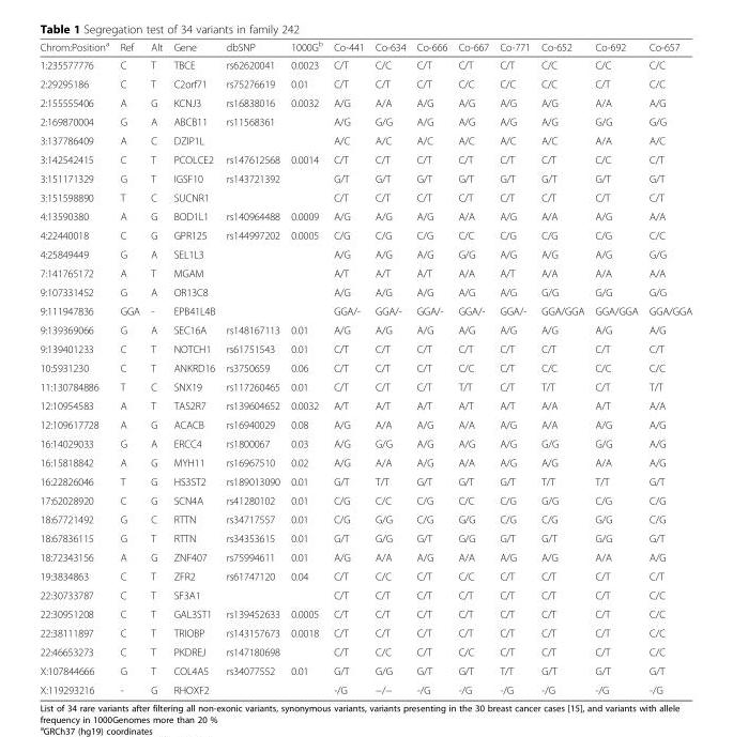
<table><thead><tr><td>Chrom:Position<sup>a</sup></td><td>Ref</td><td>Alt</td><td>Gene</td><td>dbSNP</td><td>1000G<sup>b</sup></td><td>Co-441</td><td>Co-634</td><td>Co-666</td><td>Co-667</td><td>Co-771</td><td>Co-652</td><td>Co-692</td><td>Co-657</td></tr></thead><tbody><tr><td>1:235577776</td><td>C</td><td>T</td><td>TBCE</td><td>rs62620041</td><td>0.0023</td><td>C/T</td><td>C/C</td><td>C/T</td><td>C/T</td><td>C/T</td><td>C/C</td><td>C/C</td><td>C/C</td></tr><tr><td>2:29295186</td><td>C</td><td>T</td><td>C2orf71</td><td>rs75276619</td><td>0.01</td><td>C/T</td><td>C/T</td><td>C/T</td><td>C/C</td><td>C/C</td><td>C/C</td><td>C/T</td><td>C/C</td></tr><tr><td>2:155555406</td><td>A</td><td>G</td><td>KCNJ3</td><td>rs16838016</td><td>0.0032</td><td>A/G</td><td>A/A</td><td>A/G</td><td>A/G</td><td>A/G</td><td>A/G</td><td>A/A</td><td>A/G</td></tr><tr><td>2:169870004</td><td>G</td><td>A</td><td>ABCB11</td><td>rs11568361</td><td></td><td>A/G</td><td>G/G</td><td>A/G</td><td>A/G</td><td>A/G</td><td>A/G</td><td>G/G</td><td>G/G</td></tr><tr><td>3:137786409</td><td>A</td><td>C</td><td>DZIP1L</td><td></td><td></td><td>A/C</td><td>A/C</td><td>A/C</td><td>A/C</td><td>A/C</td><td>A/C</td><td>A/A</td><td>A/C</td></tr><tr><td>3:142542415</td><td>C</td><td>T</td><td>PCOLCE2</td><td>rs147612568</td><td>0.0014</td><td>C/T</td><td>C/T</td><td>C/T</td><td>C/T</td><td>C/T</td><td>C/T</td><td>C/C</td><td>C/T</td></tr><tr><td>3:151171329</td><td>G</td><td>T</td><td>IGSF10</td><td>rs143721392</td><td></td><td>G/T</td><td>G/T</td><td>G/T</td><td>G/T</td><td>G/T</td><td>G/T</td><td>G/T</td><td>G/T</td></tr><tr><td>3:151598890</td><td>T</td><td>C</td><td>SUCNR1</td><td></td><td></td><td>C/T</td><td>C/T</td><td>C/T</td><td>C/T</td><td>C/T</td><td>C/T</td><td>C/T</td><td>C/T</td></tr><tr><td>4:13590380</td><td>A</td><td>G</td><td>BOD1L1</td><td>rs140964488</td><td>0.0009</td><td>A/G</td><td>A/G</td><td>A/G</td><td>A/A</td><td>A/G</td><td>A/A</td><td>A/G</td><td>A/A</td></tr><tr><td>4:22440018</td><td>C</td><td>G</td><td>GPR125</td><td>rs144997202</td><td>0.0005</td><td>C/G</td><td>C/G</td><td>C/G</td><td>C/C</td><td>C/G</td><td>C/G</td><td>C/G</td><td>C/C</td></tr><tr><td>4:25849449</td><td>G</td><td>A</td><td>SEL1L3</td><td></td><td></td><td>A/G</td><td>A/G</td><td>A/G</td><td>G/G</td><td>A/G</td><td>A/G</td><td>A/G</td><td>G/G</td></tr><tr><td>7:141765172</td><td>A</td><td>T</td><td>MGAM</td><td></td><td></td><td>A/T</td><td>A/T</td><td>A/T</td><td>A/A</td><td>A/T</td><td>A/A</td><td>A/A</td><td>A/A</td></tr><tr><td>9:107331452</td><td>G</td><td>A</td><td>OR13C8</td><td></td><td></td><td>A/G</td><td>A/G</td><td>A/G</td><td>A/G</td><td>A/G</td><td>G/G</td><td>G/G</td><td>G/G</td></tr><tr><td>9:111947836</td><td>GGA</td><td>-</td><td>EPB41L4B</td><td></td><td></td><td>GGA/-</td><td>GGA/-</td><td>GGA/-</td><td>GGA/-</td><td>GGA/-</td><td>GGA/GGA</td><td>GGA/GGA</td><td>GGA/GGA</td></tr><tr><td>9:139369066</td><td>G</td><td>A</td><td>SEC16A</td><td>rs148167113</td><td>0.01</td><td>A/G</td><td>A/G</td><td>A/G</td><td>A/G</td><td>A/G</td><td>A/G</td><td>A/G</td><td>A/G</td></tr><tr><td>9:139401233</td><td>C</td><td>T</td><td>NOTCH1</td><td>rs61751543</td><td>0.01</td><td>C/T</td><td>C/T</td><td>C/T</td><td>C/T</td><td>C/T</td><td>C/T</td><td>C/T</td><td>C/T</td></tr><tr><td>10:5931230</td><td>C</td><td>T</td><td>ANKRD16</td><td>rs3750659</td><td>0.06</td><td>C/T</td><td>C/T</td><td>C/T</td><td>C/C</td><td>C/T</td><td>C/C</td><td>C/C</td><td>C/C</td></tr><tr><td>11:130784886</td><td>T</td><td>C</td><td>SNX19</td><td>rs117260465</td><td>0.01</td><td>C/T</td><td>C/T</td><td>C/T</td><td>T/T</td><td>C/T</td><td>T/T</td><td>C/T</td><td>T/T</td></tr><tr><td>12:10954583</td><td>A</td><td>T</td><td>TAS2R7</td><td>rs139604652</td><td>0.0032</td><td>A/T</td><td>A/T</td><td>A/T</td><td>A/T</td><td>A/T</td><td>A/A</td><td>A/T</td><td>A/A</td></tr><tr><td>12:109617728</td><td>A</td><td>G</td><td>ACACB</td><td>rs16940029</td><td>0.08</td><td>A/G</td><td>A/A</td><td>A/G</td><td>A/A</td><td>A/G</td><td>A/A</td><td>A/G</td><td>A/G</td></tr><tr><td>16:14029033</td><td>G</td><td>A</td><td>ERCC4</td><td>rs1800067</td><td>0.03</td><td>A/G</td><td>G/G</td><td>A/G</td><td>A/G</td><td>A/G</td><td>G/G</td><td>G/G</td><td>A/G</td></tr><tr><td>16:15818842</td><td>A</td><td>G</td><td>MYH11</td><td>rs16967510</td><td>0.02</td><td>A/G</td><td>A/A</td><td>A/G</td><td>A/A</td><td>A/G</td><td>A/G</td><td>A/A</td><td>A/G</td></tr><tr><td>16:22826046</td><td>T</td><td>G</td><td>HS3ST2</td><td>rs189013090</td><td>0.01</td><td>G/T</td><td>T/T</td><td>G/T</td><td>G/T</td><td>G/T</td><td>T/T</td><td>T/T</td><td>G/T</td></tr><tr><td>17:62028920</td><td>C</td><td>G</td><td>SCN4A</td><td>rs41280102</td><td>0.01</td><td>C/G</td><td>C/C</td><td>C/G</td><td>C/C</td><td>C/G</td><td>G/G</td><td>C/G</td><td>C/G</td></tr><tr><td>18:67721492</td><td>G</td><td>C</td><td>RTTN</td><td>rs34717557</td><td>0.01</td><td>C/G</td><td>G/G</td><td>C/G</td><td>G/G</td><td>C/G</td><td>C/G</td><td>G/G</td><td>C/G</td></tr><tr><td>18:67836115</td><td>G</td><td>T</td><td>RTTN</td><td>rs34353615</td><td>0.01</td><td>G/T</td><td>G/G</td><td>G/T</td><td>G/G</td><td>G/T</td><td>G/T</td><td>G/G</td><td>G/T</td></tr><tr><td>18:72343156</td><td>A</td><td>G</td><td>ZNF407</td><td>rs75994611</td><td>0.01</td><td>A/G</td><td>A/A</td><td>A/G</td><td>A/A</td><td>A/G</td><td>A/G</td><td>A/A</td><td>A/G</td></tr><tr><td>19:3834863</td><td>C</td><td>T</td><td>ZFR2</td><td>rs61747120</td><td>0.04</td><td>C/T</td><td>C/C</td><td>C/T</td><td>C/C</td><td>C/T</td><td>C/T</td><td>C/T</td><td>C/T</td></tr><tr><td>22:30733787</td><td>C</td><td>T</td><td>SF3A1</td><td></td><td></td><td>C/T</td><td>C/T</td><td>C/T</td><td>C/T</td><td>C/T</td><td>C/T</td><td>C/T</td><td>C/C</td></tr><tr><td>22:30951208</td><td>C</td><td>T</td><td>GAL3ST1</td><td>rs139452633</td><td>0.0005</td><td>C/T</td><td>C/T</td><td>C/T</td><td>C/T</td><td>C/T</td><td>C/T</td><td>C/T</td><td>C/C</td></tr><tr><td>22:38111897</td><td>C</td><td>T</td><td>TRIOBP</td><td>rs143157673</td><td>0.0018</td><td>C/T</td><td>C/T</td><td>C/T</td><td>C/T</td><td>C/T</td><td>C/T</td><td>C/T</td><td>C/C</td></tr><tr><td>22:46653273</td><td>C</td><td>T</td><td>PKDREJ</td><td>rs147180698</td><td></td><td>C/T</td><td>C/C</td><td>C/T</td><td>C/C</td><td>C/T</td><td>C/T</td><td>C/T</td><td>C/C</td></tr><tr><td>X:107844666</td><td>G</td><td>T</td><td>COL4A5</td><td>rs34077552</td><td>0.01</td><td>G/T</td><td>G/G</td><td>G/T</td><td>G/T</td><td>T/T</td><td>G/T</td><td>G/T</td><td>G/T</td></tr><tr><td>X:119293216</td><td>-</td><td>G</td><td>RHOXF2</td><td></td><td></td><td>-/G</td><td>−/−</td><td>-/G</td><td>-/G</td><td>-/G</td><td>-/G</td><td>-/G</td><td>-/G</td></tr></tbody></table>